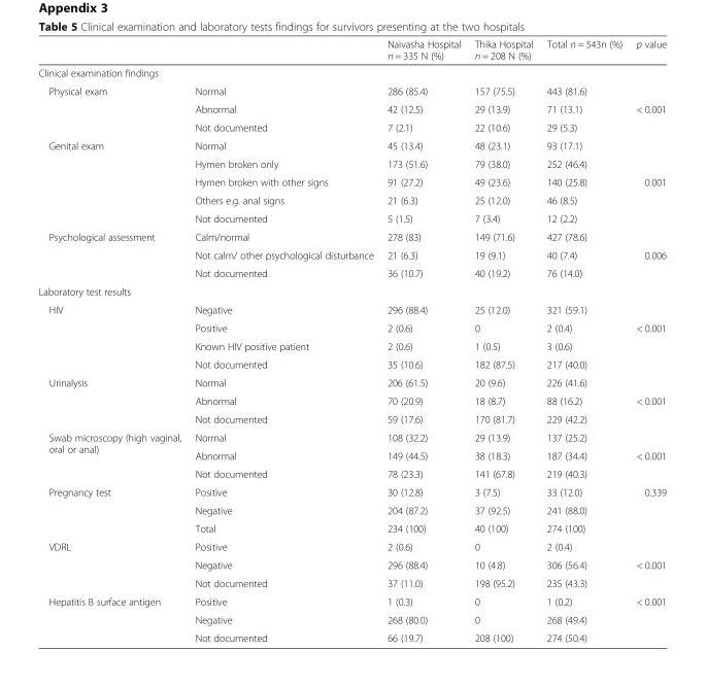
<table><thead><tr><td></td><td></td><td>Naivasha Hospital n = 335 N (%)</td><td>Thika Hospital n = 208 N (%)</td><td>Total n = 543n (%)</td><td>p value</td></tr></thead><tbody><tr><td colspan="6">Clinical examination findings</td></tr><tr><td rowspan="3">Physical exam</td><td>Normal</td><td>286 (85.4)</td><td>157 (75.5)</td><td>443 (81.6)</td><td></td></tr><tr><td>Abnormal</td><td>42 (12.5)</td><td>29 (13.9)</td><td>71 (13.1)</td><td>&lt; 0.001</td></tr><tr><td>Not documented</td><td>7 (2.1)</td><td>22 (10.6)</td><td>29 (5.3)</td><td></td></tr><tr><td rowspan="5">Genital exam</td><td>Normal</td><td>45 (13.4)</td><td>48 (23.1)</td><td>93 (17.1)</td><td></td></tr><tr><td>Hymen broken only</td><td>173 (51.6)</td><td>79 (38.0)</td><td>252 (46.4)</td><td></td></tr><tr><td>Hymen broken with other signs</td><td>91 (27.2)</td><td>49 (23.6)</td><td>140 (25.8)</td><td>0.001</td></tr><tr><td>Others e.g. anal signs</td><td>21 (6.3)</td><td>25 (12.0)</td><td>46 (8.5)</td><td></td></tr><tr><td>Not documented</td><td>5 (1.5)</td><td>7 (3.4)</td><td>12 (2.2)</td><td></td></tr><tr><td rowspan="3">Psychological assessment</td><td>Calm/normal</td><td>278 (83)</td><td>149 (71.6)</td><td>427 (78.6)</td><td></td></tr><tr><td>Not calm/ other psychological disturbance</td><td>21 (6.3)</td><td>19 (9.1)</td><td>40 (7.4)</td><td>0.006</td></tr><tr><td>Not documented</td><td>36 (10.7)</td><td>40 (19.2)</td><td>76 (14.0)</td><td></td></tr><tr><td colspan="6">Laboratory test results</td></tr><tr><td rowspan="4">HIV</td><td>Negative</td><td>296 (88.4)</td><td>25 (12.0)</td><td>321 (59.1)</td><td></td></tr><tr><td>Positive</td><td>2 (0.6)</td><td>0</td><td>2 (0.4)</td><td>&lt; 0.001</td></tr><tr><td>Known HIV positive patient</td><td>2 (0.6)</td><td>1 (0.5)</td><td>3 (0.6)</td><td></td></tr><tr><td>Not documented</td><td>35 (10.6)</td><td>182 (87.5)</td><td>217 (40.0)</td><td></td></tr><tr><td rowspan="3">Urinalysis</td><td>Normal</td><td>206 (61.5)</td><td>20 (9.6)</td><td>226 (41.6)</td><td></td></tr><tr><td>Abnormal</td><td>70 (20.9)</td><td>18 (8.7)</td><td>88 (16.2)</td><td>&lt; 0.001</td></tr><tr><td>Not documented</td><td>59 (17.6)</td><td>170 (81.7)</td><td>229 (42.2)</td><td></td></tr><tr><td rowspan="3">Swab microscopy (high vaginal, oral or anal)</td><td>Normal</td><td>108 (32.2)</td><td>29 (13.9)</td><td>137 (25.2)</td><td></td></tr><tr><td>Abnormal</td><td>149 (44.5)</td><td>38 (18.3)</td><td>187 (34.4)</td><td>&lt; 0.001</td></tr><tr><td>Not documented</td><td>78 (23.3)</td><td>141 (67.8)</td><td>219 (40.3)</td><td></td></tr><tr><td rowspan="3">Pregnancy test</td><td>Positive</td><td>30 (12.8)</td><td>3 (7.5)</td><td>33 (12.0)</td><td rowspan="3">0.339</td></tr><tr><td>Negative</td><td>204 (87.2)</td><td>37 (92.5)</td><td>241 (88.0)</td></tr><tr><td>Total</td><td>234 (100)</td><td>40 (100)</td><td>274 (100)</td></tr><tr><td rowspan="3">VDRL</td><td>Positive</td><td>2 (0.6)</td><td>0</td><td>2 (0.4)</td><td></td></tr><tr><td>Negative</td><td>296 (88.4)</td><td>10 (4.8)</td><td>306 (56.4)</td><td>&lt; 0.001</td></tr><tr><td>Not documented</td><td>37 (11.0)</td><td>198 (95.2)</td><td>235 (43.3)</td><td></td></tr><tr><td rowspan="3">Hepatitis B surface antigen</td><td>Positive</td><td>1 (0.3)</td><td>0</td><td>1 (0.2)</td><td rowspan="3">&lt; 0.001</td></tr><tr><td>Negative</td><td>268 (80.0)</td><td>0</td><td>268 (49.4)</td></tr><tr><td>Not documented</td><td>66 (19.7)</td><td>208 (100)</td><td>274 (50.4)</td></tr></tbody></table>